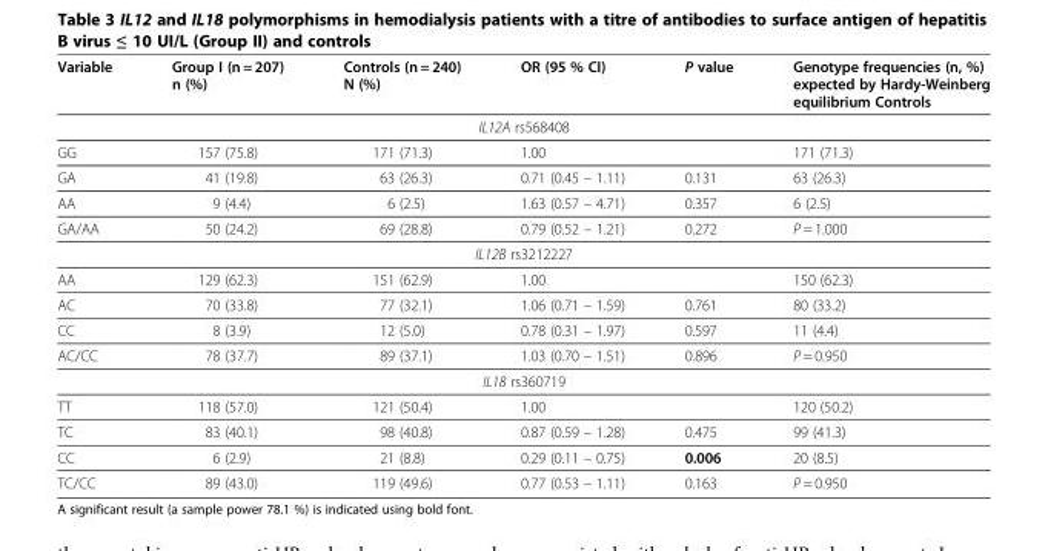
<table><thead><tr><td>Variable</td><td>Group I (n = 207) n (%)</td><td>Controls (n = 240) N (%)</td><td>OR (95 % CI)</td><td>P value</td><td>Genotype frequencies (n, %) expected by Hardy-Weinberg equilibrium Controls</td></tr></thead><tbody><tr><td colspan="6">IL12A rs568408</td></tr><tr><td>GG</td><td>157 (75.8)</td><td>171 (71.3)</td><td>1.00</td><td></td><td>171 (71.3)</td></tr><tr><td>GA</td><td>41 (19.8)</td><td>63 (26.3)</td><td>0.71 (0.45 – 1.11)</td><td>0.131</td><td>63 (26.3)</td></tr><tr><td>AA</td><td>9 (4.4)</td><td>6 (2.5)</td><td>1.63 (0.57 – 4.71)</td><td>0.357</td><td>6 (2.5)</td></tr><tr><td>GA/AA</td><td>50 (24.2)</td><td>69 (28.8)</td><td>0.79 (0.52 – 1.21)</td><td>0.272</td><td>P = 1.000</td></tr><tr><td colspan="6">IL12B rs3212227</td></tr><tr><td>AA</td><td>129 (62.3)</td><td>151 (62.9)</td><td>1.00</td><td></td><td>150 (62.3)</td></tr><tr><td>AC</td><td>70 (33.8)</td><td>77 (32.1)</td><td>1.06 (0.71 – 1.59)</td><td>0.761</td><td>80 (33.2)</td></tr><tr><td>CC</td><td>8 (3.9)</td><td>12 (5.0)</td><td>0.78 (0.31 – 1.97)</td><td>0.597</td><td>11 (4.4)</td></tr><tr><td>AC/CC</td><td>78 (37.7)</td><td>89 (37.1)</td><td>1.03 (0.70 – 1.51)</td><td>0.896</td><td>P = 0.950</td></tr><tr><td colspan="6">IL18 rs360719</td></tr><tr><td>TT</td><td>118 (57.0)</td><td>121 (50.4)</td><td>1.00</td><td></td><td>120 (50.2)</td></tr><tr><td>TC</td><td>83 (40.1)</td><td>98 (40.8)</td><td>0.87 (0.59 – 1.28)</td><td>0.475</td><td>99 (41.3)</td></tr><tr><td>CC</td><td>6 (2.9)</td><td>21 (8.8)</td><td>0.29 (0.11 – 0.75)</td><td>0.006</td><td>20 (8.5)</td></tr><tr><td>TC/CC</td><td>89 (43.0)</td><td>119 (49.6)</td><td>0.77 (0.53 – 1.11)</td><td>0.163</td><td>P = 0.950</td></tr></tbody></table>